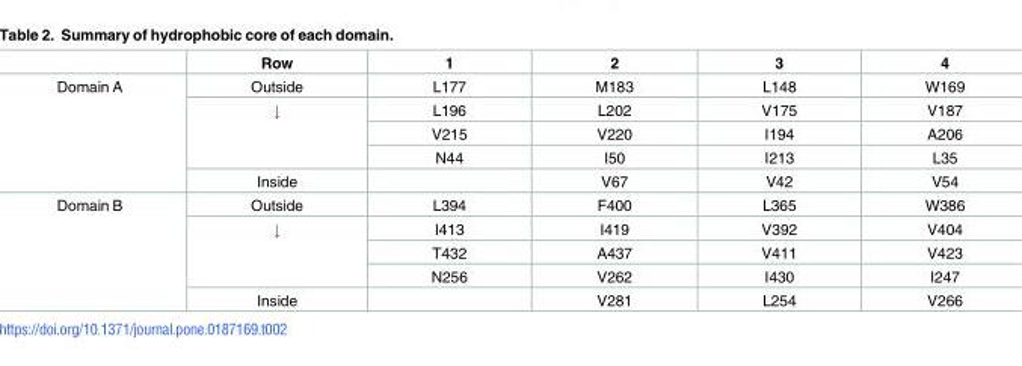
<table><thead><tr><td></td><td>Row</td><td>1</td><td>2</td><td>3</td><td>4</td></tr></thead><tbody><tr><td rowspan="5">Domain A</td><td>Outside</td><td>L177</td><td>M183</td><td>L148</td><td>W169</td></tr><tr><td rowspan="3">↓</td><td>L196</td><td>L202</td><td>V175</td><td>V187</td></tr><tr><td>V215</td><td>V220</td><td>I194</td><td>A206</td></tr><tr><td>N44</td><td>I50</td><td>I213</td><td>L35</td></tr><tr><td>Inside</td><td></td><td>V67</td><td>V42</td><td>V54</td></tr><tr><td rowspan="5">Domain B</td><td>Outside</td><td>L394</td><td>F400</td><td>L365</td><td>W386</td></tr><tr><td rowspan="3">↓</td><td>I413</td><td>I419</td><td>V392</td><td>V404</td></tr><tr><td>T432</td><td>A437</td><td>V411</td><td>V423</td></tr><tr><td>N256</td><td>V262</td><td>I430</td><td>I247</td></tr><tr><td>Inside</td><td></td><td>V281</td><td>L254</td><td>V266</td></tr></tbody></table>